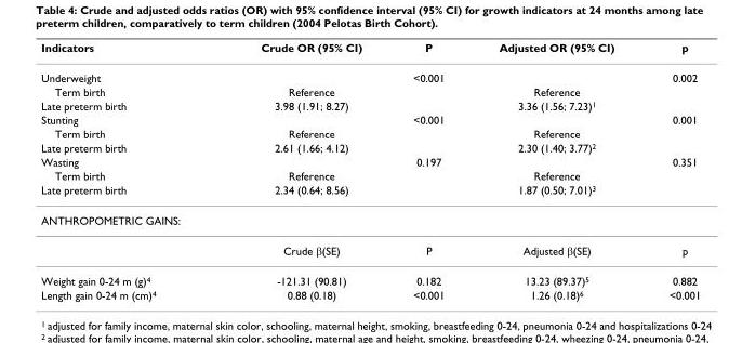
<table><thead><tr><td>Indicators</td><td>Crude OR (95% CI)</td><td>P</td><td>Adjusted OR (95% CI)</td><td>p</td></tr></thead><tbody><tr><td>Underweight</td><td></td><td>&lt;0.001</td><td></td><td>0.002</td></tr><tr><td>Term birth</td><td>Reference</td><td></td><td>Reference</td><td></td></tr><tr><td>Late preterm birth</td><td>3.98 (1.91; 8.27)</td><td></td><td>3.36 (1.56; 7.23)<sup>1</sup></td><td></td></tr><tr><td>Stunting</td><td></td><td>&lt;0.001</td><td></td><td>0.001</td></tr><tr><td>Term birth</td><td>Reference</td><td></td><td>Reference</td><td></td></tr><tr><td>Late preterm birth</td><td>2.61 (1.66; 4.12)</td><td></td><td>2.30 (1.40; 3.77)<sup>2</sup></td><td></td></tr><tr><td>Wasting</td><td></td><td>0.197</td><td></td><td>0.351</td></tr><tr><td>Term birth</td><td>Reference</td><td></td><td>Reference</td><td></td></tr><tr><td>Late preterm birth</td><td>2.34 (0.64; 8.56)</td><td></td><td>1.87 (0.50; 7.01)<sup>3</sup></td><td></td></tr><tr><td colspan="5">ANTHROPOMETRIC GAINS:</td></tr><tr><td></td><td>Crude β(SE)</td><td>P</td><td>Adjusted β(SE)</td><td>p</td></tr><tr><td>Weight gain 0-24 m (g)<sup>4</sup></td><td>-121.31 (90.81)</td><td>0.182</td><td>13.23 (89.37)<sup>5</sup></td><td>0.882</td></tr><tr><td>Length gain 0-24 m (cm)<sup>4</sup></td><td>0.88 (0.18)</td><td>&lt;0.001</td><td>1.26 (0.18)<sup>6</sup></td><td>&lt;0.001</td></tr></tbody></table>